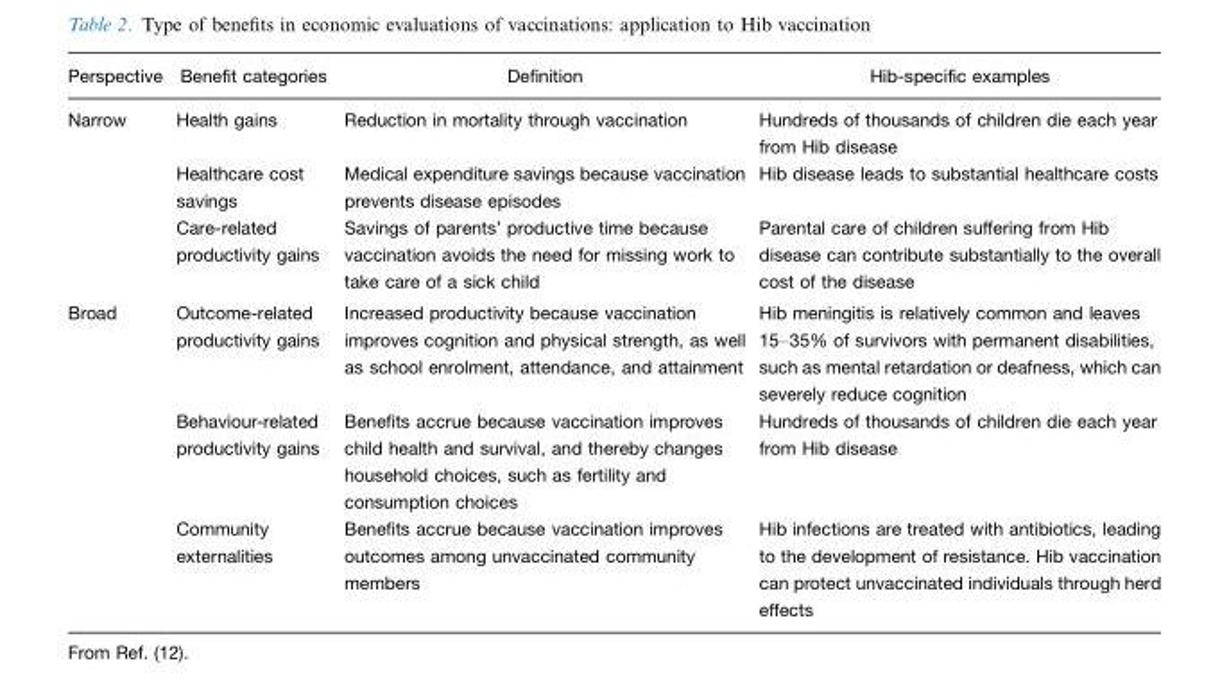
<table><thead><tr><td>Perspective</td><td>Benefit categories</td><td>Definition</td><td>Hib-specific examples</td></tr></thead><tbody><tr><td rowspan="3">Narrow</td><td>Health gains</td><td>Reduction in mortality through vaccination</td><td>Hundreds of thousands of children die each year from Hib disease</td></tr><tr><td>Healthcare cost savings</td><td>Medical expenditure savings because vaccination prevents disease episodes</td><td>Hib disease leads to substantial healthcare costs</td></tr><tr><td>Care-related productivity gains</td><td>Savings of parents’ productive time because vaccination avoids the need for missing work to take care of a sick child</td><td>Parental care of children suffering from Hib disease can contribute substantially to the overall cost of the disease</td></tr><tr><td rowspan="3">Broad</td><td>Outcome-related productivity gains</td><td>Increased productivity because vaccination improves cognition and physical strength, as well as school enrolment, attendance, and attainment</td><td>Hib meningitis is relatively common and leaves 15–35% of survivors with permanent disabilities, such as mental retardation or deafness, which can severely reduce cognition</td></tr><tr><td>Behaviour-related productivity gains</td><td>Benefits accrue because vaccination improves child health and survival, and thereby changes household choices, such as fertility and consumption choices</td><td>Hundreds of thousands of children die each year from Hib disease</td></tr><tr><td>Community externalities</td><td>Benefits accrue because vaccination improves outcomes among unvaccinated community members</td><td>Hib infections are treated with antibiotics, leading to the development of resistance. Hib vaccination can protect unvaccinated individuals through herd effects</td></tr></tbody></table>